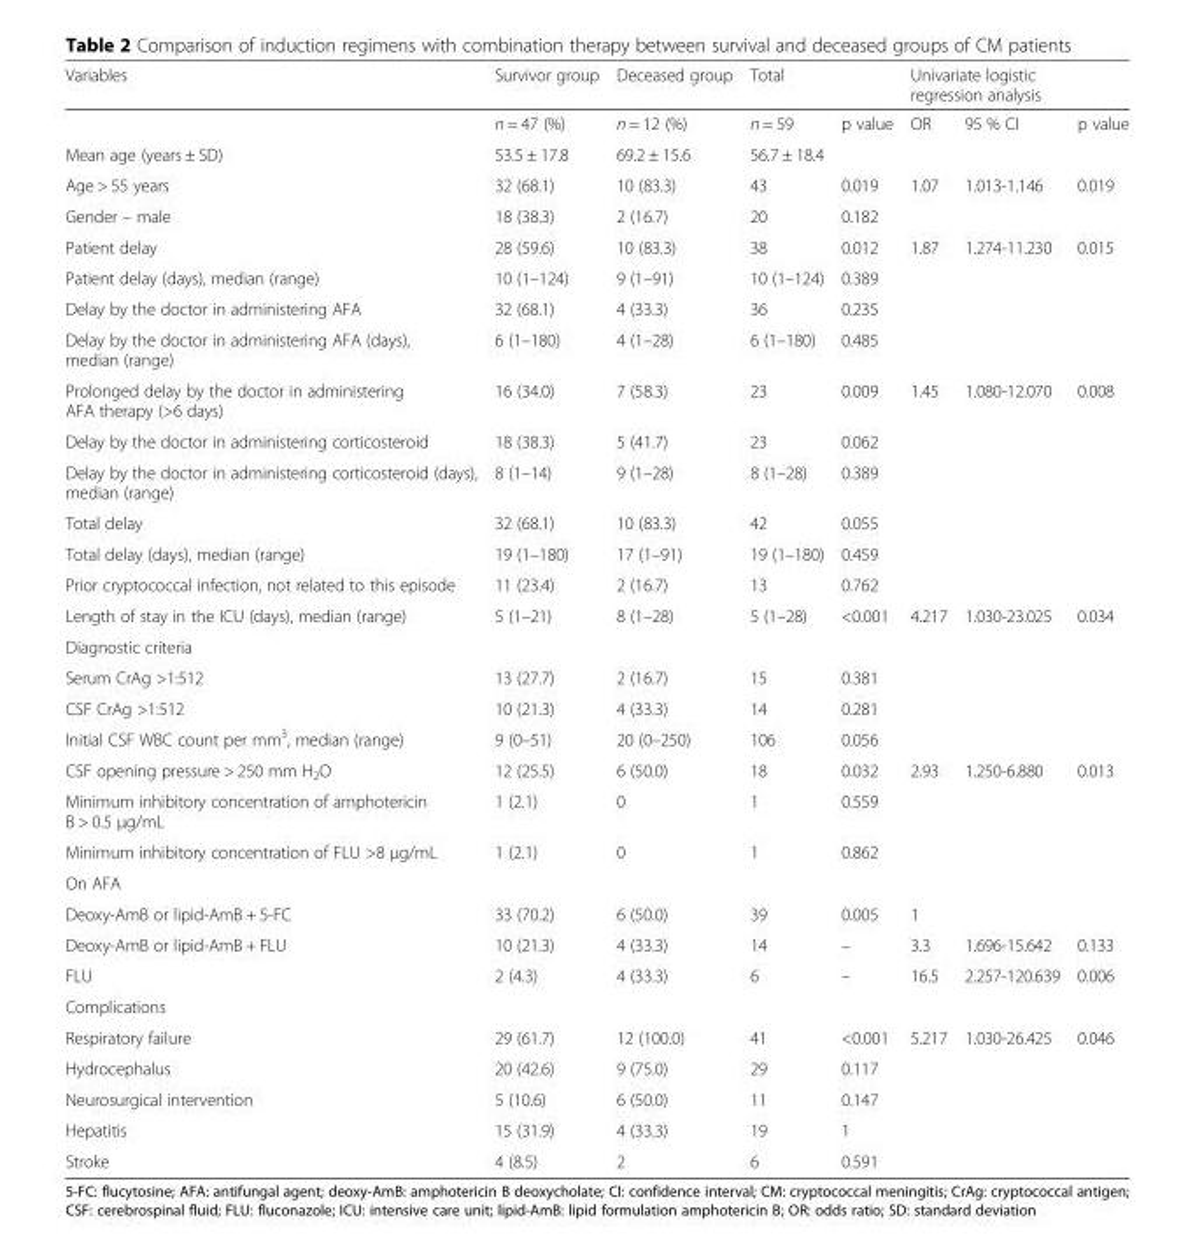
<table><thead><tr><td rowspan="2">Variables</td><td rowspan="2">Survivor group n = 47 (%)</td><td rowspan="2">Deceased group n = 12 (%)</td><td rowspan="2">Total n = 59</td><td rowspan="2">p value</td><td colspan="3">Univariate logistic regression analysis</td></tr><tr><td>OR</td><td>95 % CI</td><td>p value</td></tr></thead><tbody><tr><td>Mean age (years ± SD)</td><td>53.5 ± 17.8</td><td>69.2 ± 15.6</td><td>56.7 ± 18.4</td><td></td><td></td><td></td><td></td></tr><tr><td>Age &gt; 55 years</td><td>32 (68.1)</td><td>10 (83.3)</td><td>43</td><td>0.019</td><td>1.07</td><td>1.013-1.146</td><td>0.019</td></tr><tr><td>Gender – male</td><td>18 (38.3)</td><td>2 (16.7)</td><td>20</td><td>0.182</td><td></td><td></td><td></td></tr><tr><td>Patient delay</td><td>28 (59.6)</td><td>10 (83.3)</td><td>38</td><td>0.012</td><td>1.87</td><td>1.274-11.230</td><td>0.015</td></tr><tr><td>Patient delay (days), median (range)</td><td>10 (1–124)</td><td>9 (1–91)</td><td>10 (1–124)</td><td>0.389</td><td></td><td></td><td></td></tr><tr><td>Delay by the doctor in administering AFA</td><td>32 (68.1)</td><td>4 (33.3)</td><td>36</td><td>0.235</td><td></td><td></td><td></td></tr><tr><td>Delay by the doctor in administering AFA (days), median (range)</td><td>6 (1–180)</td><td>4 (1–28)</td><td>6 (1–180)</td><td>0.485</td><td></td><td></td><td></td></tr><tr><td>Prolonged delay by the doctor in administering AFA therapy (&gt;6 days)</td><td>16 (34.0)</td><td>7 (58.3)</td><td>23</td><td>0.009</td><td>1.45</td><td>1.080-12.070</td><td>0.008</td></tr><tr><td>Delay by the doctor in administering corticosteroid</td><td>18 (38.3)</td><td>5 (41.7)</td><td>23</td><td>0.062</td><td></td><td></td><td></td></tr><tr><td>Delay by the doctor in administering corticosteroid (days), median (range)</td><td>8 (1–14)</td><td>9 (1–28)</td><td>8 (1–28)</td><td>0.389</td><td></td><td></td><td></td></tr><tr><td>Total delay</td><td>32 (68.1)</td><td>10 (83.3)</td><td>42</td><td>0.055</td><td></td><td></td><td></td></tr><tr><td>Total delay (days), median (range)</td><td>19 (1–180)</td><td>17 (1–91)</td><td>19 (1–180)</td><td>0.459</td><td></td><td></td><td></td></tr><tr><td>Prior cryptococcal infection, not related to this episode</td><td>11 (23.4)</td><td>2 (16.7)</td><td>13</td><td>0.762</td><td></td><td></td><td></td></tr><tr><td>Length of stay in the ICU (days), median (range)</td><td>5 (1–21)</td><td>8 (1–28)</td><td>5 (1–28)</td><td>&lt;0.001</td><td>4.217</td><td>1.030-23.025</td><td>0.034</td></tr><tr><td colspan="8">Diagnostic criteria</td></tr><tr><td>Serum CrAg &gt;1:512</td><td>13 (27.7)</td><td>2 (16.7)</td><td>15</td><td>0.381</td><td></td><td></td><td></td></tr><tr><td>CSF CrAg &gt;1:512</td><td>10 (21.3)</td><td>4 (33.3)</td><td>14</td><td>0.281</td><td></td><td></td><td></td></tr><tr><td>Initial CSF WBC count per mm<sup>3</sup>, median (range)</td><td>9 (0–51)</td><td>20 (0–250)</td><td>106</td><td>0.056</td><td></td><td></td><td></td></tr><tr><td>CSF opening pressure &gt; 250 mm H<sub>2</sub>O</td><td>12 (25.5)</td><td>6 (50.0)</td><td>18</td><td>0.032</td><td>2.93</td><td>1.250-6.880</td><td>0.013</td></tr><tr><td>Minimum inhibitory concentration of amphotericin B &gt; 0.5 μg/mL</td><td>1 (2.1)</td><td>0</td><td>1</td><td>0.559</td><td></td><td></td><td></td></tr><tr><td>Minimum inhibitory concentration of FLU &gt;8 μg/mL</td><td>1 (2.1)</td><td>0</td><td>1</td><td>0.862</td><td></td><td></td><td></td></tr><tr><td colspan="8">On AFA</td></tr><tr><td>Deoxy-AmB or lipid-AmB + 5-FC</td><td>33 (70.2)</td><td>6 (50.0)</td><td>39</td><td>0.005</td><td>1</td><td></td><td></td></tr><tr><td>Deoxy-AmB or lipid-AmB + FLU</td><td>10 (21.3)</td><td>4 (33.3)</td><td>14</td><td>–</td><td>3.3</td><td>1.696-15.642</td><td>0.133</td></tr><tr><td>FLU</td><td>2 (4.3)</td><td>4 (33.3)</td><td>6</td><td>–</td><td>16.5</td><td>2.257-120.639</td><td>0.006</td></tr><tr><td colspan="8">Complications</td></tr><tr><td>Respiratory failure</td><td>29 (61.7)</td><td>12 (100.0)</td><td>41</td><td>&lt;0.001</td><td>5.217</td><td>1.030-26.425</td><td>0.046</td></tr><tr><td>Hydrocephalus</td><td>20 (42.6)</td><td>9 (75.0)</td><td>29</td><td>0.117</td><td></td><td></td><td></td></tr><tr><td>Neurosurgical intervention</td><td>5 (10.6)</td><td>6 (50.0)</td><td>11</td><td>0.147</td><td></td><td></td><td></td></tr><tr><td>Hepatitis</td><td>15 (31.9)</td><td>4 (33.3)</td><td>19</td><td>1</td><td></td><td></td><td></td></tr><tr><td>Stroke</td><td>4 (8.5)</td><td>2</td><td>6</td><td>0.591</td><td></td><td></td><td></td></tr></tbody></table>